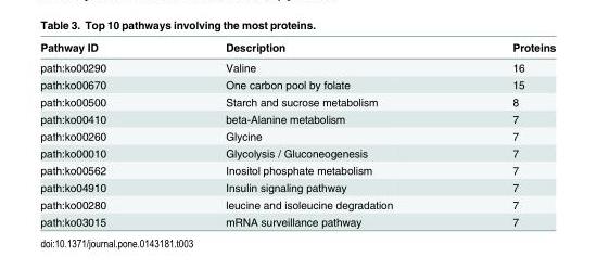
<table><thead><tr><td>Pathway ID</td><td>Description</td><td>Proteins</td></tr></thead><tbody><tr><td>path:ko00290</td><td>Valine</td><td>16</td></tr><tr><td>path:ko00670</td><td>One carbon pool by folate</td><td>15</td></tr><tr><td>path:ko00500</td><td>Starch and sucrose metabolism</td><td>8</td></tr><tr><td>path:ko00410</td><td>beta-Alanine metabolism</td><td>7</td></tr><tr><td>path:ko00260</td><td>Glycine</td><td>7</td></tr><tr><td>path:ko00010</td><td>Glycolysis / Gluconeogenesis</td><td>7</td></tr><tr><td>path:ko00562</td><td>Inositol phosphate metabolism</td><td>7</td></tr><tr><td>path:ko04910</td><td>Insulin signaling pathway</td><td>7</td></tr><tr><td>path:ko00280</td><td>leucine and isoleucine degradation</td><td>7</td></tr><tr><td>path:ko03015</td><td>mRNA surveillance pathway</td><td>7</td></tr></tbody></table>